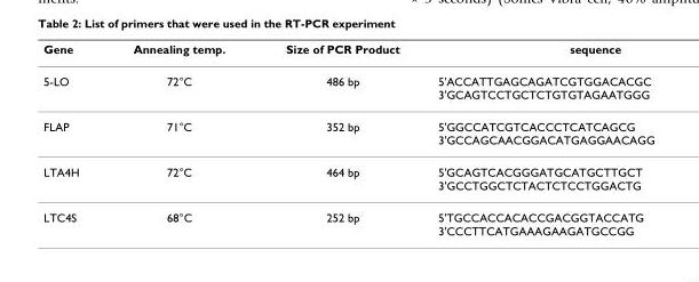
<table><thead><tr><td>Gene</td><td>Annealing temp.</td><td>Size of PCR Product</td><td>sequence</td></tr></thead><tbody><tr><td>5-LO</td><td>72°C</td><td>486 bp</td><td>5&#x27;ACCATTGAGCAGATCGTGGACACGC 3&#x27;GCAGTCCTGCTCTGTGTAGAATGGG</td></tr><tr><td>FLAP</td><td>71°C</td><td>352 bp</td><td>5&#x27;GGCCATCGTCACCCTCATCAGCG 3&#x27;GCCAGCAACGGACATGAGGAACAGG</td></tr><tr><td>LTA4H</td><td>72°C</td><td>464 bp</td><td>5&#x27;GCAGTCACGGGATGCATGCTTGCT 3&#x27;GCCTGGCTCTACTCTCCTGGACTG</td></tr><tr><td>LTC4S</td><td>68°C</td><td>252 bp</td><td>5&#x27;TGCCACCACACCGACGGTACCATG 3&#x27;CCCTTCATGAAAGAAGATGCCGG</td></tr></tbody></table>